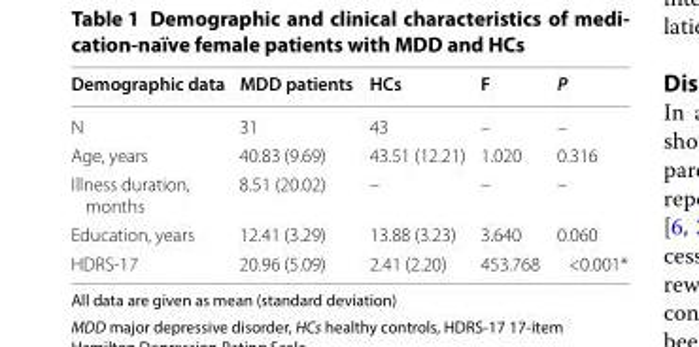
<table><thead><tr><td>Demographic data</td><td>MDD patients</td><td>HCs</td><td>F</td><td>P</td></tr></thead><tbody><tr><td>N</td><td>31</td><td>43</td><td>–</td><td>–</td></tr><tr><td>Age, years</td><td>40.83 (9.69)</td><td>43.51 (12.21)</td><td>1.020</td><td>0.316</td></tr><tr><td>Illness duration, months</td><td>8.51 (20.02)</td><td>–</td><td>–</td><td>–</td></tr><tr><td>Education, years</td><td>12.41 (3.29)</td><td>13.88 (3.23)</td><td>3.640</td><td>0.060</td></tr><tr><td>HDRS‑17</td><td>20.96 (5.09)</td><td>2.41 (2.20)</td><td>453.768</td><td>&lt;0.001*</td></tr></tbody></table>